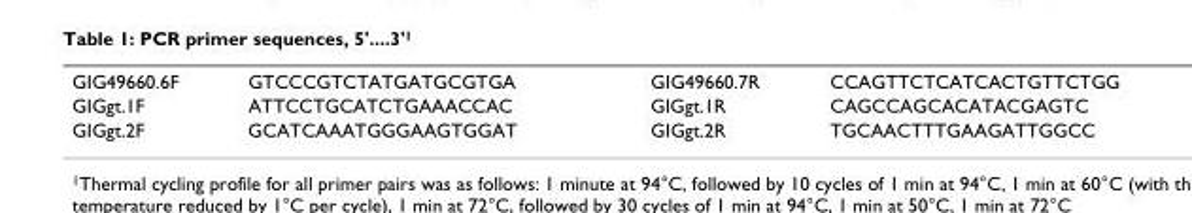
<table><tbody><tr><td>GIG49660.6F</td><td>GTCCCGTCTATGATGCGTGA</td><td>GIG49660.7R</td><td>CCAGTTCTCATCACTGTTCTGG</td></tr><tr><td>GIGgt.1F</td><td>ATTCCTGCATCTGAAACCAC</td><td>GIGgt.1R</td><td>CAGCCAGCACATACGAGTC</td></tr><tr><td>GIGgt.2F</td><td>GCATCAAATGGGAAGTGGAT</td><td>GIGgt.2R</td><td>TGCAACTTTGAAGATTGGCC</td></tr></tbody></table>